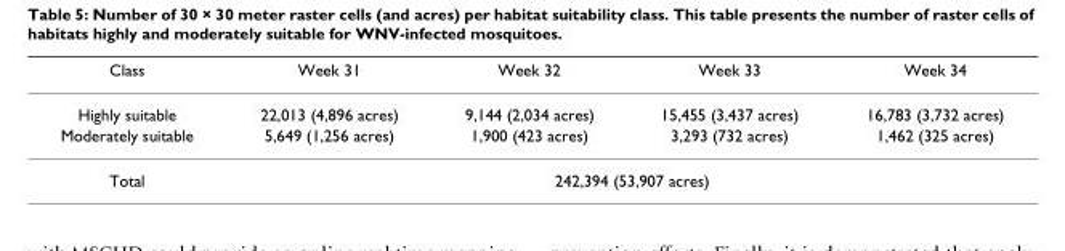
<table><thead><tr><td>Class</td><td>Week 31</td><td>Week 32</td><td>Week 33</td><td>Week 34</td></tr></thead><tbody><tr><td>Highly suitable</td><td>22,013 (4,896 acres)</td><td>9,144 (2,034 acres)</td><td>15,455 (3,437 acres)</td><td>16,783 (3,732 acres)</td></tr><tr><td>Moderately suitable</td><td>5,649 (1,256 acres)</td><td>1,900 (423 acres)</td><td>3,293 (732 acres)</td><td>1,462 (325 acres)</td></tr><tr><td>Total</td><td colspan="4">242,394 (53,907 acres)</td></tr></tbody></table>